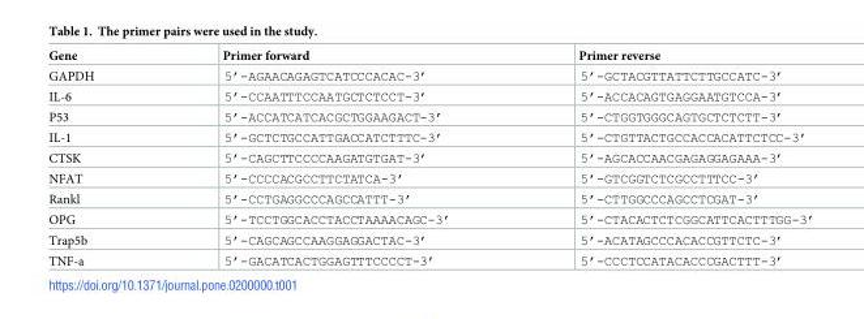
<table><thead><tr><td>Gene</td><td>Primer forward</td><td>Primer reverse</td></tr></thead><tbody><tr><td>GAPDH</td><td>5’-AGAACAGAGTCATCCCACAC-3’</td><td>5’-GCTACGTTATTCTTGCCATC-3’</td></tr><tr><td>IL-6</td><td>5’-CCAATTTCCAATGCTCTCCT-3’</td><td>5’-ACCACAGTGAGGAATGTCCA-3’</td></tr><tr><td>P53</td><td>5’-ACCATCATCACGCTGGAAGACT-3’</td><td>5’-CTGGTGGGCAGTGCTCTCTT-3’</td></tr><tr><td>IL-1</td><td>5’-GCTCTGCCATTGACCATCTTTC-3’</td><td>5’-CTGTTACTGCCACCACATTCTCC-3’</td></tr><tr><td>CTSK</td><td>5’-CAGCTTCCCCAAGATGTGAT-3’</td><td>5’-AGCACCAACGAGAGGAGAAA-3’</td></tr><tr><td>NFAT</td><td>5’-CCCCACGCCTTCTATCA-3’</td><td>5’-GTCGGTCTCGCCTTTCC-3’</td></tr><tr><td>Rankl</td><td>5’-CCTGAGGCCCAGCCATTT-3’</td><td>5’-CTTGGCCCAGCCTCGAT-3’</td></tr><tr><td>OPG</td><td>5’-TCCTGGCACCTACCTAAAACAGC-3’</td><td>5’-CTACACTCTCGGCATTCACTTTGG-3’</td></tr><tr><td>Trap5b</td><td>5’-CAGCAGCCAAGGAGGACTAC-3’</td><td>5’-ACATAGCCCACACCGTTCTC-3’</td></tr><tr><td>TNF-a</td><td>5’-GACATCACTGGAGTTTCCCCT-3’</td><td>5’-CCCTCCATACACCCGACTTT-3’</td></tr></tbody></table>